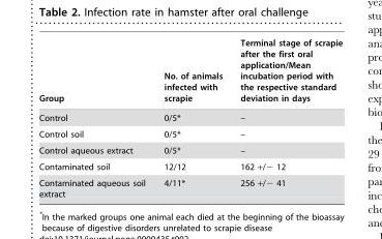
<table><thead><tr><td>Group</td><td>No. of animals infected with scrapie</td><td>Terminal stage of scrapie after the first oral application/Mean incubation period with the respective standard deviation in days</td></tr></thead><tbody><tr><td>Control</td><td>0/5*</td><td>–</td></tr><tr><td>Control soil</td><td>0/5*</td><td>–</td></tr><tr><td>Control aqueous extract</td><td>0/5*</td><td>–</td></tr><tr><td>Contaminated soil</td><td>12/12</td><td>162 +/− 12</td></tr><tr><td>Contaminated aqueous soil extract</td><td>4/11*</td><td>256 +/− 41</td></tr></tbody></table>